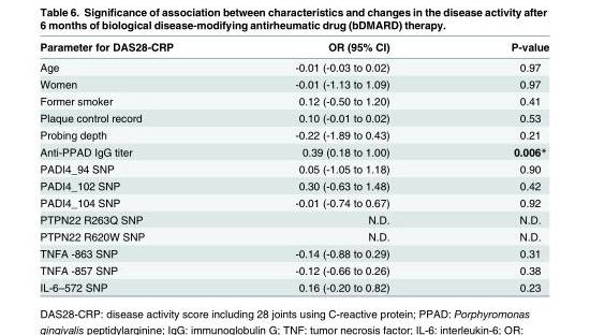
<table><thead><tr><td>Parameter for DAS28-CRP</td><td>OR (95% CI)</td><td>P-value</td></tr></thead><tbody><tr><td>Age</td><td>-0.01 (-0.03 to 0.02)</td><td>0.97</td></tr><tr><td>Women</td><td>-0.01 (-1.13 to 1.09)</td><td>0.97</td></tr><tr><td>Former smoker</td><td>0.12 (-0.50 to 1.20)</td><td>0.41</td></tr><tr><td>Plaque control record</td><td>0.10 (-0.01 to 0.02)</td><td>0.53</td></tr><tr><td>Probing depth</td><td>-0.22 (-1.89 to 0.43)</td><td>0.21</td></tr><tr><td>Anti-PPAD IgG titer</td><td>0.39 (0.18 to 1.00)</td><td>0.006*</td></tr><tr><td>PADI4_94 SNP</td><td>0.05 (-1.05 to 1.18)</td><td>0.90</td></tr><tr><td>PADI4_102 SNP</td><td>0.30 (-0.63 to 1.48)</td><td>0.42</td></tr><tr><td>PADI4_104 SNP</td><td>-0.01 (-0.74 to 0.67)</td><td>0.92</td></tr><tr><td>PTPN22 R263Q SNP</td><td>N.D.</td><td>N.D.</td></tr><tr><td>PTPN22 R620W SNP</td><td>N.D.</td><td>N.D.</td></tr><tr><td>TNFA -863 SNP</td><td>-0.14 (-0.88 to 0.29)</td><td>0.31</td></tr><tr><td>TNFA -857 SNP</td><td>-0.12 (-0.66 to 0.26)</td><td>0.38</td></tr><tr><td>IL-6–572 SNP</td><td>0.16 (-0.20 to 0.82)</td><td>0.23</td></tr></tbody></table>